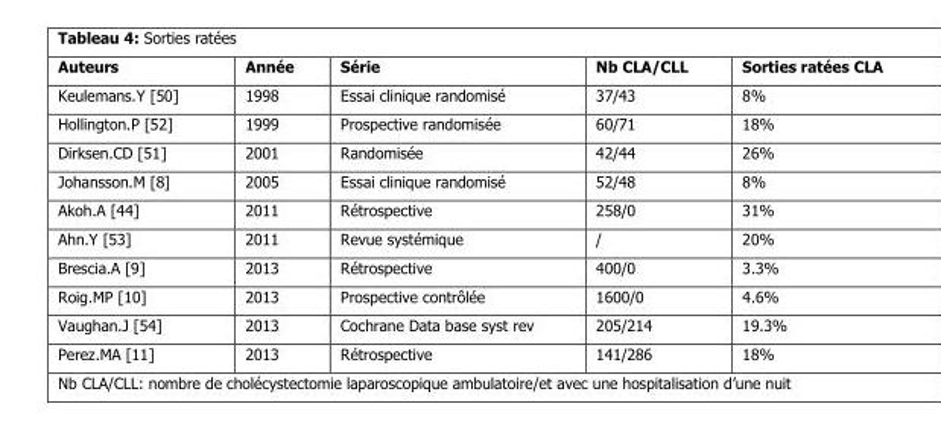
<table><thead><tr><td>Auteurs</td><td>Année</td><td>Série</td><td>Nb CLA/CLL</td><td>Sorties ratées CLA</td></tr></thead><tbody><tr><td>Keulemans.Y [50]</td><td>1998</td><td>Essai clinique randomisé</td><td>37/43</td><td>8%</td></tr><tr><td>Hollington.P [52]</td><td>1999</td><td>Prospective randomisée</td><td>60/71</td><td>18%</td></tr><tr><td>Dirksen.CD [51]</td><td>2001</td><td>Randomisée</td><td>42/44</td><td>26%</td></tr><tr><td>Johansson.M [8]</td><td>2005</td><td>Essai clinique randomisé</td><td>52/48</td><td>8%</td></tr><tr><td>Akoh.A [44]</td><td>2011</td><td>Rétrospective</td><td>258/0</td><td>31%</td></tr><tr><td>Ahn.Y [53]</td><td>2011</td><td>Revue systémique</td><td>/</td><td>20%</td></tr><tr><td>Brescia.A [9]</td><td>2013</td><td>Rétrospective</td><td>400/0</td><td>3.3%</td></tr><tr><td>Roig.MP [10]</td><td>2013</td><td>Prospective contrôlée</td><td>1600/0</td><td>4.6%</td></tr><tr><td>Vaughan.J [54]</td><td>2013</td><td>Cochrane Data base syst rev</td><td>205/214</td><td>19.3%</td></tr><tr><td>Perez.MA [11]</td><td>2013</td><td>Rétrospective</td><td>141/286</td><td>18%</td></tr></tbody></table>